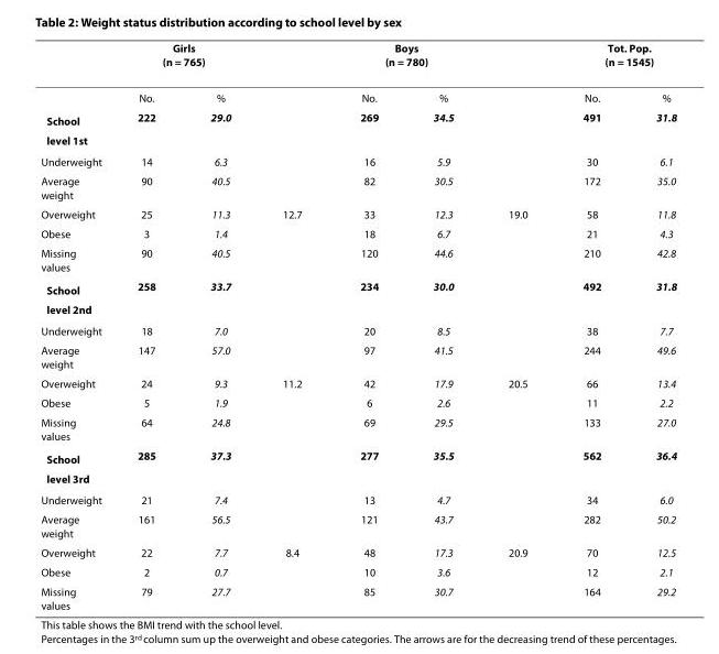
<table><thead><tr><td rowspan="2"></td><td colspan="2">Girls (n = 765)</td><td rowspan="2"></td><td colspan="2">Boys (n = 780)</td><td rowspan="2"></td><td colspan="2">Tot. Pop. (n = 1545)</td></tr><tr><td>No.</td><td>%</td><td>No.</td><td>%</td><td>No.</td><td>%</td></tr></thead><tbody><tr><td>School level 1<sup>st</sup></td><td>222</td><td>29.0</td><td></td><td>269</td><td>34.5</td><td></td><td>491</td><td>31.8</td></tr><tr><td>Underweight</td><td>14</td><td>6.3</td><td></td><td>16</td><td>5.9</td><td></td><td>30</td><td>6.1</td></tr><tr><td>Average weight</td><td>90</td><td>40.5</td><td></td><td>82</td><td>30.5</td><td></td><td>172</td><td>35.0</td></tr><tr><td>Overweight</td><td>25</td><td>11.3</td><td>12.7↓</td><td>33</td><td>12.3</td><td>19.0</td><td>58</td><td>11.8</td></tr><tr><td>Obese</td><td>3</td><td>1.4</td><td></td><td>18</td><td>6.7</td><td></td><td>21</td><td>4.3</td></tr><tr><td>Missing values</td><td>90</td><td>40.5</td><td></td><td>120</td><td>44.6</td><td></td><td>210</td><td>42.8</td></tr><tr><td>School level 2<sup>nd</sup></td><td>258</td><td>33.7</td><td></td><td>234</td><td>30.0</td><td></td><td>492</td><td>31.8</td></tr><tr><td>Underweight</td><td>18</td><td>7.0</td><td></td><td>20</td><td>8.5</td><td></td><td>38</td><td>7.7</td></tr><tr><td>Average weight</td><td>147</td><td>57.0</td><td></td><td>97</td><td>41.5</td><td></td><td>244</td><td>49.6</td></tr><tr><td>Overweight</td><td>24</td><td>9.3</td><td>11.2↓</td><td>42</td><td>17.9</td><td>20.5</td><td>66</td><td>13.4</td></tr><tr><td>Obese</td><td>5</td><td>1.9</td><td></td><td>6</td><td>2.6</td><td></td><td>11</td><td>2.2</td></tr><tr><td>Missing values</td><td>64</td><td>24.8</td><td></td><td>69</td><td>29.5</td><td></td><td>133</td><td>27.0</td></tr><tr><td>School level 3<sup>rd</sup></td><td>285</td><td>37.3</td><td></td><td>277</td><td>35.5</td><td></td><td>562</td><td>36.4</td></tr><tr><td>Underweight</td><td>21</td><td>7.4</td><td></td><td>13</td><td>4.7</td><td></td><td>34</td><td>6.0</td></tr><tr><td>Average weight</td><td>161</td><td>56.5</td><td></td><td>121</td><td>43.7</td><td></td><td>282</td><td>50.2</td></tr><tr><td>Overweight</td><td>22</td><td>7.7</td><td>8.4↓</td><td>48</td><td>17.3</td><td>20.9</td><td>70</td><td>12.5</td></tr><tr><td>Obese</td><td>2</td><td>0.7</td><td></td><td>10</td><td>3.6</td><td></td><td>12</td><td>2.1</td></tr><tr><td>Missing values</td><td>79</td><td>27.7</td><td></td><td>85</td><td>30.7</td><td></td><td>164</td><td>29.2</td></tr></tbody></table>